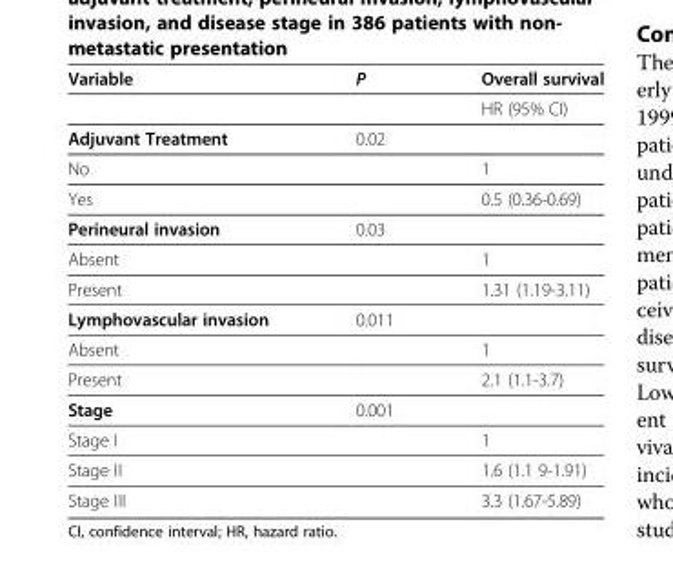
<table><thead><tr><td>Variable</td><td>P</td><td>Overall survival</td></tr></thead><tbody><tr><td></td><td></td><td>HR (95% CI)</td></tr><tr><td>Adjuvant Treatment</td><td>0.02</td><td></td></tr><tr><td>No</td><td></td><td>1</td></tr><tr><td>Yes</td><td></td><td>0.5 (0.36-0.69)</td></tr><tr><td>Perineural invasion</td><td>0.03</td><td></td></tr><tr><td>Absent</td><td></td><td>1</td></tr><tr><td>Present</td><td></td><td>1.31 (1.19-3.11)</td></tr><tr><td>Lymphovascular invasion</td><td>0.011</td><td></td></tr><tr><td>Absent</td><td></td><td>1</td></tr><tr><td>Present</td><td></td><td>2.1 (1.1-3.7)</td></tr><tr><td>Stage</td><td>0.001</td><td></td></tr><tr><td>Stage I</td><td></td><td>1</td></tr><tr><td>Stage II</td><td></td><td>1.6 (1.1 9-1.91)</td></tr><tr><td>Stage III</td><td></td><td>3.3 (1.67-5.89)</td></tr></tbody></table>